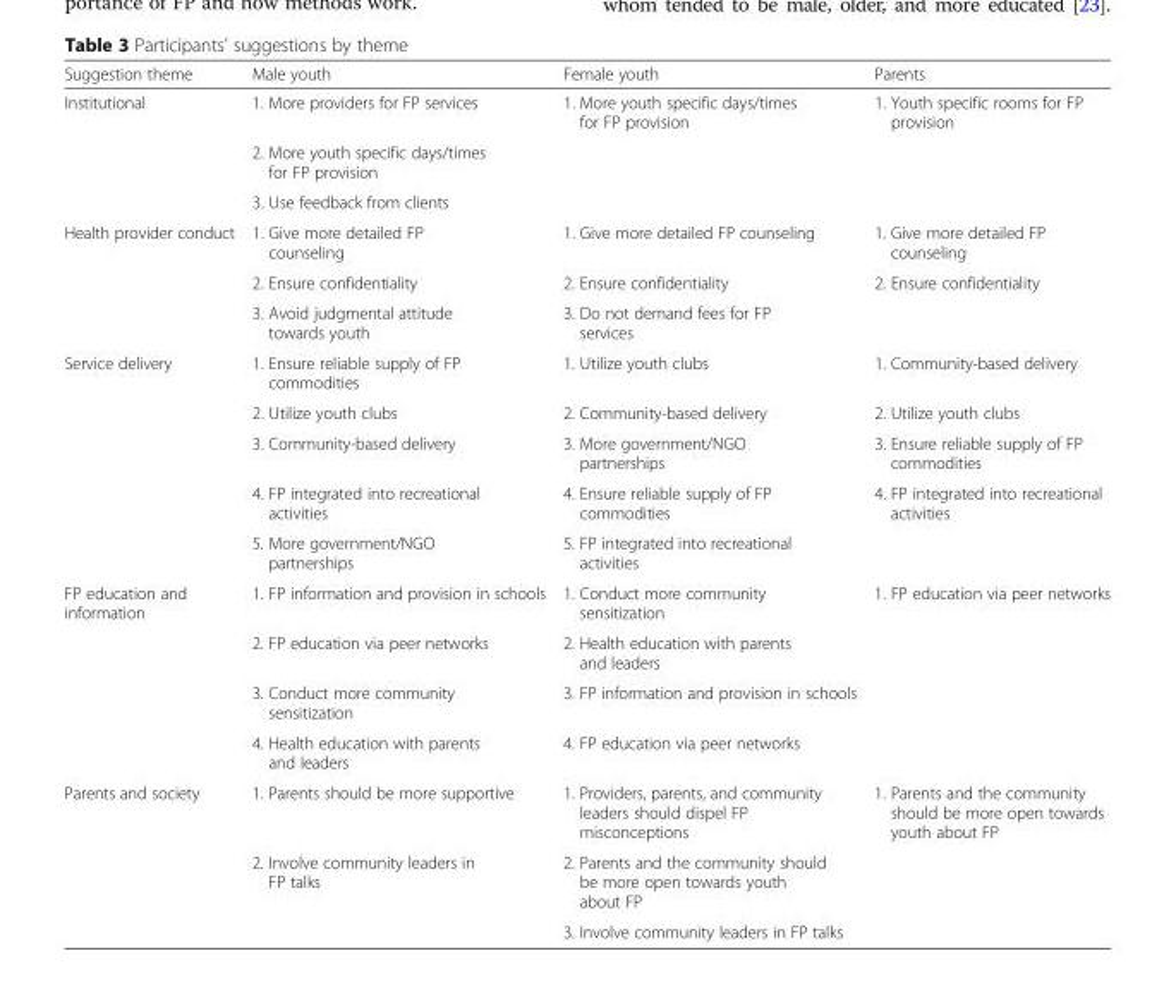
<table><thead><tr><td>Suggestion theme</td><td>Male youth</td><td>Female youth</td><td>Parents</td></tr></thead><tbody><tr><td rowspan="3">Institutional</td><td>1. More providers for FP services</td><td>1. More youth specific days/times for FP provision</td><td>1. Youth specific rooms for FP provision</td></tr><tr><td>2. More youth specific days/times for FP provision</td><td></td><td></td></tr><tr><td>3. Use feedback from clients</td><td></td><td></td></tr><tr><td rowspan="3">Health provider conduct</td><td>1. Give more detailed FP counseling</td><td>1. Give more detailed FP counseling</td><td>1. Give more detailed FP counseling</td></tr><tr><td>2. Ensure confidentiality</td><td>2. Ensure confidentiality</td><td>2. Ensure confidentiality</td></tr><tr><td>3. Avoid judgmental attitude towards youth</td><td>3. Do not demand fees for FP services</td><td></td></tr><tr><td rowspan="5">Service delivery</td><td>1. Ensure reliable supply of FP commodities</td><td>1. Utilize youth clubs</td><td>1. Community-based delivery</td></tr><tr><td>2. Utilize youth clubs</td><td>2. Community-based delivery</td><td>2. Utilize youth clubs</td></tr><tr><td>3. Community-based delivery</td><td>3. More government/NGO partnerships</td><td>3. Ensure reliable supply of FP commodities</td></tr><tr><td>4. FP integrated into recreational activities</td><td>4. Ensure reliable supply of FP commodities</td><td>4. FP integrated into recreational activities</td></tr><tr><td>5. More government/NGO partnerships</td><td>5. FP integrated into recreational activities</td><td></td></tr><tr><td rowspan="4">FP education and information</td><td>1. FP information and provision in schools</td><td>1. Conduct more community sensitization</td><td>1. FP education via peer networks</td></tr><tr><td>2. FP education via peer networks</td><td>2. Health education with parents and leaders</td><td></td></tr><tr><td>3. Conduct more community sensitization</td><td>3. FP information and provision in schools</td><td></td></tr><tr><td>4. Health education with parents and leaders</td><td>4. FP education via peer networks</td><td></td></tr><tr><td rowspan="3">Parents and society</td><td>1. Parents should be more supportive</td><td>1. Providers, parents, and community leaders should dispel FP misconceptions</td><td>1. Parents and the community should be more open towards youth about FP</td></tr><tr><td>2. Involve community leaders in FP talks</td><td>2. Parents and the community should be more open towards youth about FP</td><td></td></tr><tr><td></td><td>3. Involve community leaders in FP talks</td><td></td></tr></tbody></table>